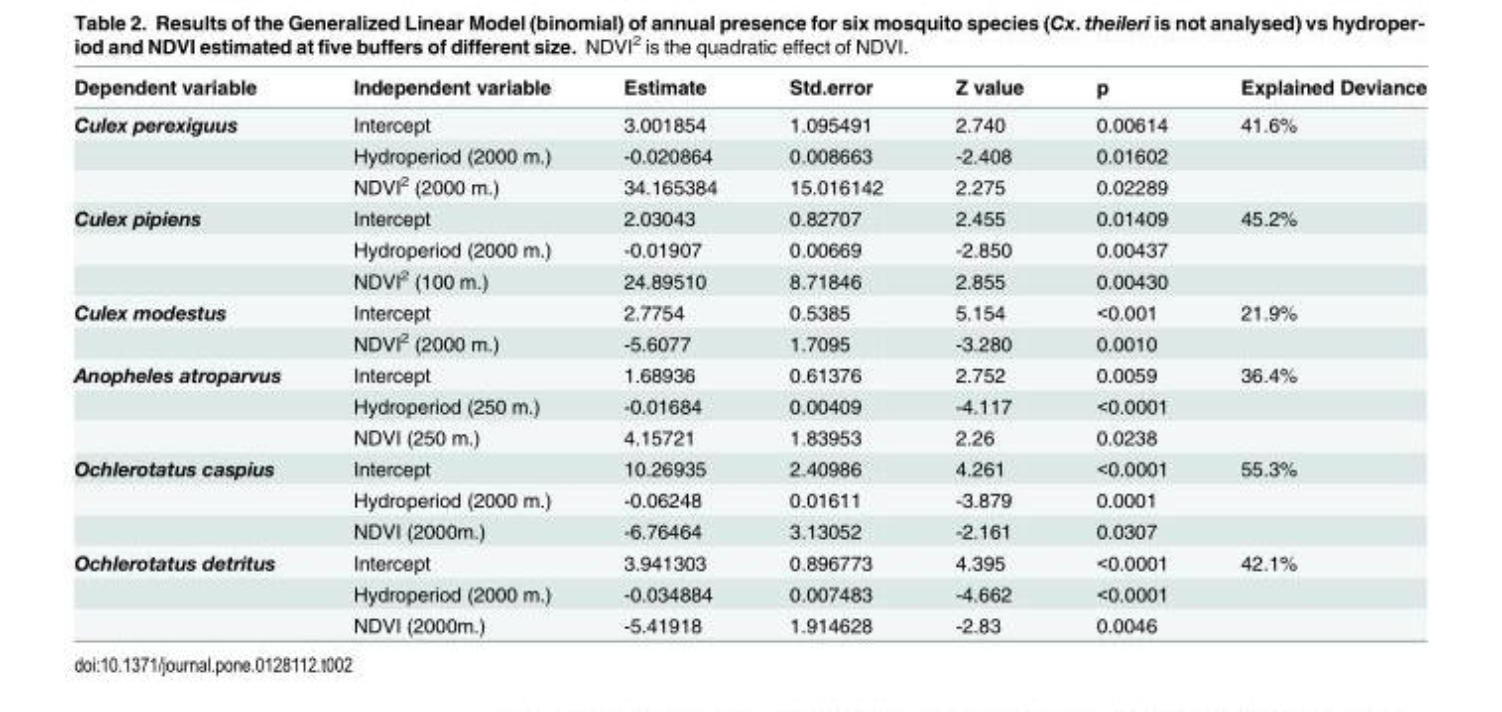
<table><thead><tr><td>Dependent variable</td><td>Independent variable</td><td>Estimate</td><td>Std.error</td><td>Z value</td><td>p</td><td>Explained Deviance</td></tr></thead><tbody><tr><td rowspan="3">Culex perexiguus</td><td>Intercept</td><td>3.001854</td><td>1.095491</td><td>2.740</td><td>0.00614</td><td>41.6%</td></tr><tr><td>Hydroperiod (2000 m.)</td><td>-0.020864</td><td>0.008663</td><td>-2.408</td><td>0.01602</td><td></td></tr><tr><td>NDVI<sup>2</sup> (2000 m.)</td><td>34.165384</td><td>15.016142</td><td>2.275</td><td>0.02289</td><td></td></tr><tr><td rowspan="3">Culex pipiens</td><td>Intercept</td><td>2.03043</td><td>0.82707</td><td>2.455</td><td>0.01409</td><td>45.2%</td></tr><tr><td>Hydroperiod (2000 m.)</td><td>-0.01907</td><td>0.00669</td><td>-2.850</td><td>0.00437</td><td></td></tr><tr><td>NDVI<sup>2</sup> (100 m.)</td><td>24.89510</td><td>8.71846</td><td>2.855</td><td>0.00430</td><td></td></tr><tr><td rowspan="2">Culex modestus</td><td>Intercept</td><td>2.7754</td><td>0.5385</td><td>5.154</td><td>&lt;0.001</td><td>21.9%</td></tr><tr><td>NDVI<sup>2</sup> (2000 m.)</td><td>-5.6077</td><td>1.7095</td><td>-3.280</td><td>0.0010</td><td></td></tr><tr><td rowspan="3">Anopheles atroparvus</td><td>Intercept</td><td>1.68936</td><td>0.61376</td><td>2.752</td><td>0.0059</td><td>36.4%</td></tr><tr><td>Hydroperiod (250 m.)</td><td>-0.01684</td><td>0.00409</td><td>-4.117</td><td>&lt;0.0001</td><td></td></tr><tr><td>NDVI (250 m.)</td><td>4.15721</td><td>1.83953</td><td>2.26</td><td>0.0238</td><td></td></tr><tr><td rowspan="3">Ochlerotatus caspius</td><td>Intercept</td><td>10.26935</td><td>2.40986</td><td>4.261</td><td>&lt;0.0001</td><td>55.3%</td></tr><tr><td>Hydroperiod (2000 m.)</td><td>-0.06248</td><td>0.01611</td><td>-3.879</td><td>0.0001</td><td></td></tr><tr><td>NDVI (2000m.)</td><td>-6.76464</td><td>3.13052</td><td>-2.161</td><td>0.0307</td><td></td></tr><tr><td rowspan="3">Ochlerotatus detritus</td><td>Intercept</td><td>3.941303</td><td>0.896773</td><td>4.395</td><td>&lt;0.0001</td><td>42.1%</td></tr><tr><td>Hydroperiod (2000 m.)</td><td>-0.034884</td><td>0.007483</td><td>-4.662</td><td>&lt;0.0001</td><td></td></tr><tr><td>NDVI (2000m.)</td><td>-5.41918</td><td>1.914628</td><td>-2.83</td><td>0.0046</td><td></td></tr></tbody></table>